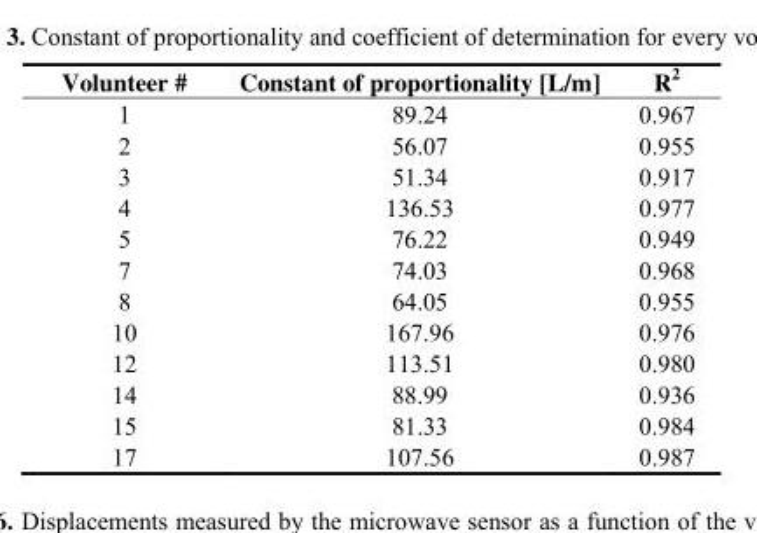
<table><thead><tr><td>Volunteer #</td><td>Constant of proportionality [L/m]</td><td>R<sup>2</sup></td></tr></thead><tbody><tr><td>1</td><td>89.24</td><td>0.967</td></tr><tr><td>2</td><td>56.07</td><td>0.955</td></tr><tr><td>3</td><td>51.34</td><td>0.917</td></tr><tr><td>4</td><td>136.53</td><td>0.977</td></tr><tr><td>5</td><td>76.22</td><td>0.949</td></tr><tr><td>7</td><td>74.03</td><td>0.968</td></tr><tr><td>8</td><td>64.05</td><td>0.955</td></tr><tr><td>10</td><td>167.96</td><td>0.976</td></tr><tr><td>12</td><td>113.51</td><td>0.980</td></tr><tr><td>14</td><td>88.99</td><td>0.936</td></tr><tr><td>15</td><td>81.33</td><td>0.984</td></tr><tr><td>17</td><td>107.56</td><td>0.987</td></tr></tbody></table>